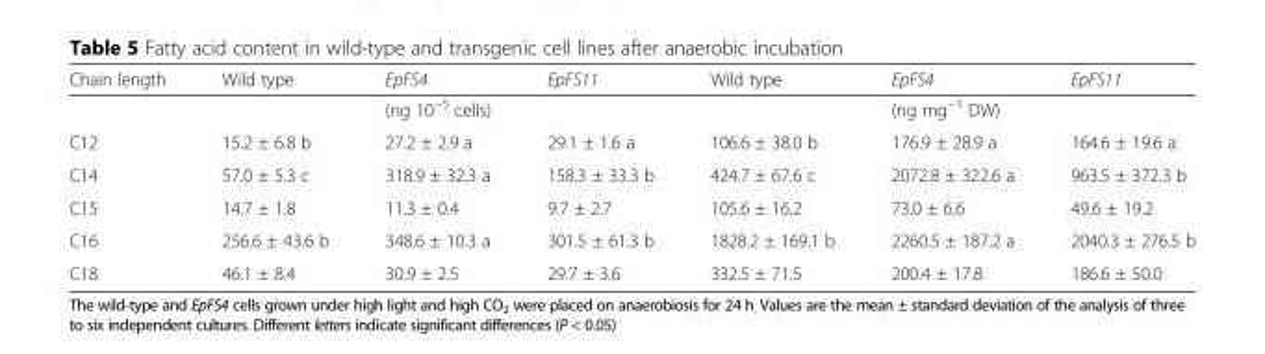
<table><thead><tr><td>Chain length</td><td>Wild type</td><td>EpFS4</td><td>EpFS11</td><td>Wild type</td><td>EpFS4</td><td>EpFS11</td></tr></thead><tbody><tr><td></td><td></td><td>(ng 10<sup>−5</sup> cells)</td><td></td><td></td><td>(ng mg<sup>−1</sup> DW)</td><td></td></tr><tr><td>C12</td><td>15.2 ± 6.8 b</td><td>27.2 ± 2.9 a</td><td>29.1 ± 1.6 a</td><td>106.6 ± 38.0 b</td><td>176.9 ± 28.9 a</td><td>164.6 ± 19.6 a</td></tr><tr><td>C14</td><td>57.0 ± 5.3 c</td><td>318.9 ± 32.3 a</td><td>158.3 ± 33.3 b</td><td>424.7 ± 67.6 c</td><td>2072.8 ± 322.6 a</td><td>963.5 ± 372.3 b</td></tr><tr><td>C15</td><td>14.7 ± 1.8</td><td>11.3 ± 0.4</td><td>9.7 ± 2.7</td><td>105.6 ± 16.2</td><td>73.0 ± 6.6</td><td>49.6 ± 19.2</td></tr><tr><td>C16</td><td>256.6 ± 43.6 b</td><td>348.6 ± 10.3 a</td><td>301.5 ± 61.3 b</td><td>1828.2 ± 169.1 b</td><td>2260.5 ± 187.2 a</td><td>2040.3 ± 276.5 b</td></tr><tr><td>C18</td><td>46.1 ± 8.4</td><td>30.9 ± 2.5</td><td>29.7 ± 3.6</td><td>332.5 ± 71.5</td><td>200.4 ± 17.8</td><td>186.6 ± 50.0</td></tr></tbody></table>